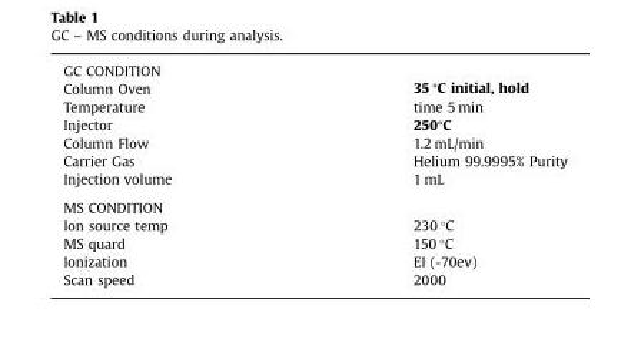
<table><tbody><tr><td>GC CONDITION</td><td rowspan="2">35 °C initial, hold</td></tr><tr><td>Column Oven</td></tr><tr><td>Temperature</td><td>time 5 min</td></tr><tr><td>Injector</td><td>250°C</td></tr><tr><td>Column Flow</td><td>1.2 mL/min</td></tr><tr><td>Carrier Gas</td><td>Helium 99.9995% Purity</td></tr><tr><td>Injection volume</td><td>1 mL</td></tr><tr><td colspan="2">MS CONDITION</td></tr><tr><td>Ion source temp</td><td>230 °C</td></tr><tr><td>MS quard</td><td>150 °C</td></tr><tr><td>Ionization</td><td>EI (-70ev)</td></tr><tr><td>Scan speed</td><td>2000</td></tr></tbody></table>